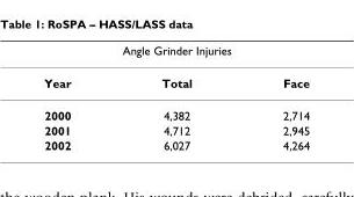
<table><thead><tr><td colspan="3">Angle Grinder Injuries</td></tr><tr><td>Year</td><td>Total</td><td>Face</td></tr></thead><tbody><tr><td>2000</td><td>4,382</td><td>2,714</td></tr><tr><td>2001</td><td>4,712</td><td>2,945</td></tr><tr><td>2002</td><td>6,027</td><td>4,264</td></tr></tbody></table>